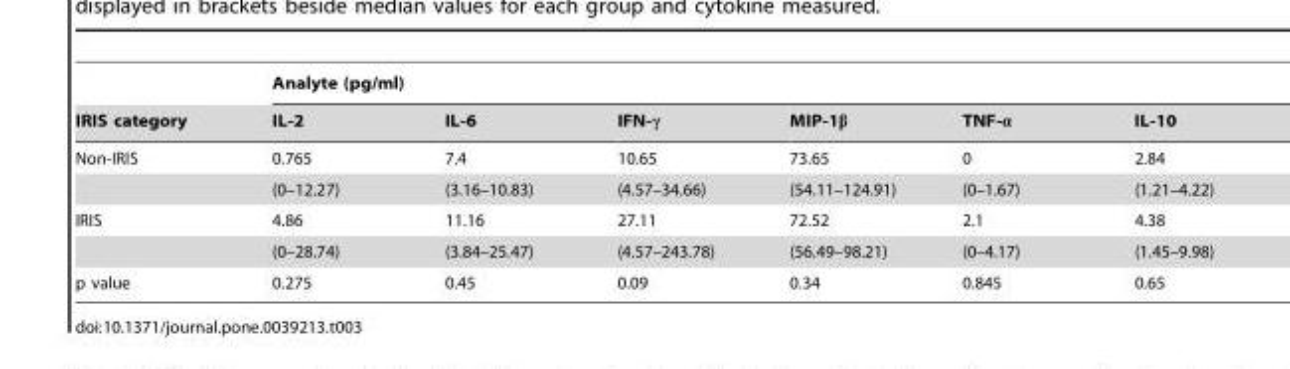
<table><thead><tr><td rowspan="2">IRIS category</td><td colspan="6">Analyte (pg/ml)</td></tr><tr><td>IL-2</td><td>IL-6</td><td>IFN-γ</td><td>MIP-1β</td><td>TNF-α</td><td>IL-10</td></tr></thead><tbody><tr><td rowspan="2">Non-IRIS</td><td>0.765</td><td>7.4</td><td>10.65</td><td>73.65</td><td>0</td><td>2.84</td></tr><tr><td>(0–12.27)</td><td>(3.16–10.83)</td><td>(4.57–34.66)</td><td>(54.11–124.91)</td><td>(0–1.67)</td><td>(1.21–4.22)</td></tr><tr><td rowspan="2">IRIS</td><td>4.86</td><td>11.16</td><td>27.11</td><td>72.52</td><td>2.1</td><td>4.38</td></tr><tr><td>(0–28.74)</td><td>(3.84–25.47)</td><td>(4.57–243.78)</td><td>(56.49–98.21)</td><td>(0–4.17)</td><td>(1.45–9.98)</td></tr><tr><td>p value</td><td>0.275</td><td>0.45</td><td>0.09</td><td>0.34</td><td>0.845</td><td>0.65</td></tr></tbody></table>